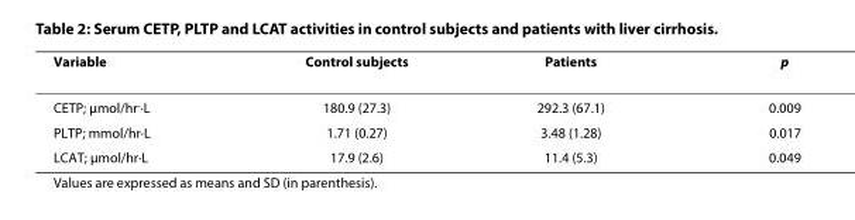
<table><thead><tr><td>Variable</td><td>Control subjects</td><td>Patients</td><td>p</td></tr></thead><tbody><tr><td>CETP; μmol/hr<sup>-</sup>·L</td><td>180.9 (27.3)</td><td>292.3 (67.1)</td><td>0.009</td></tr><tr><td>PLTP; mmol/hr·L</td><td>1.71 (0.27)</td><td>3.48 (1.28)</td><td>0.017</td></tr><tr><td>LCAT; μmol/hr·L</td><td>17.9 (2.6)</td><td>11.4 (5.3)</td><td>0.049</td></tr></tbody></table>